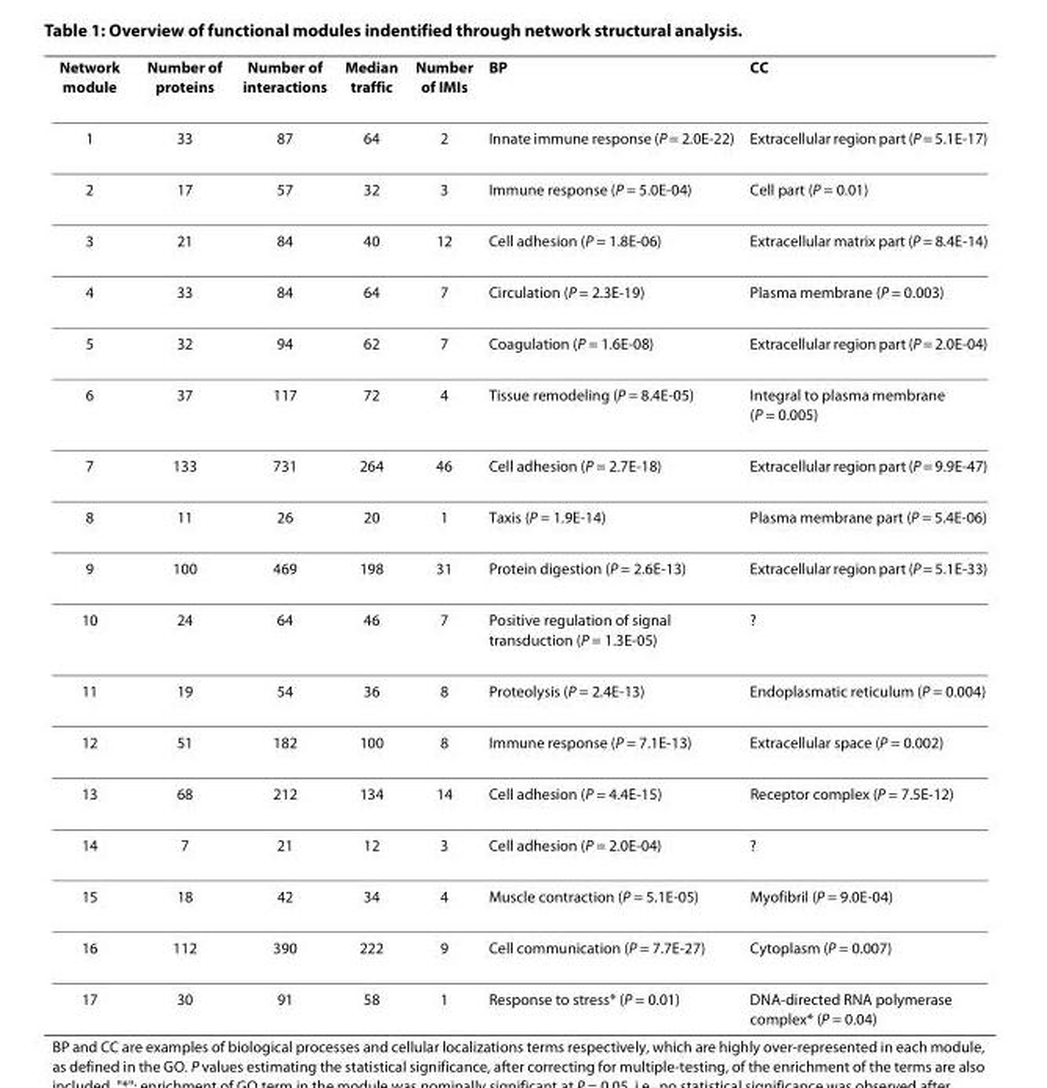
<table><thead><tr><td>Network module</td><td>Number of proteins</td><td>Number of interactions</td><td>Median traffic</td><td>Number of IMIs</td><td>BP</td><td>CC</td></tr></thead><tbody><tr><td>1</td><td>33</td><td>87</td><td>64</td><td>2</td><td>Innate immune response (P = 2.0E-22)</td><td>Extracellular region part (P = 5.1E-17)</td></tr><tr><td>2</td><td>17</td><td>57</td><td>32</td><td>3</td><td>Immune response (P = 5.0E-04)</td><td>Cell part (P = 0.01)</td></tr><tr><td>3</td><td>21</td><td>84</td><td>40</td><td>12</td><td>Cell adhesion (P = 1.8E-06)</td><td>Extracellular matrix part (P = 8.4E-14)</td></tr><tr><td>4</td><td>33</td><td>84</td><td>64</td><td>7</td><td>Circulation (P = 2.3E-19)</td><td>Plasma membrane (P = 0.003)</td></tr><tr><td>5</td><td>32</td><td>94</td><td>62</td><td>7</td><td>Coagulation (P = 1.6E-08)</td><td>Extracellular region part (P = 2.0E-04)</td></tr><tr><td>6</td><td>37</td><td>117</td><td>72</td><td>4</td><td>Tissue remodeling (P = 8.4E-05)</td><td>Integral to plasma membrane (P = 0.005)</td></tr><tr><td>7</td><td>133</td><td>731</td><td>264</td><td>46</td><td>Cell adhesion (P = 2.7E-18)</td><td>Extracellular region part (P = 9.9E-47)</td></tr><tr><td>8</td><td>11</td><td>26</td><td>20</td><td>1</td><td>Taxis (P = 1.9E-14)</td><td>Plasma membrane part (P = 5.4E-06)</td></tr><tr><td>9</td><td>100</td><td>469</td><td>198</td><td>31</td><td>Protein digestion (P = 2.6E-13)</td><td>Extracellular region part (P = 5.1E-33)</td></tr><tr><td>10</td><td>24</td><td>64</td><td>46</td><td>7</td><td>Positive regulation of signal transduction (P = 1.3E-05)</td><td>?</td></tr><tr><td>11</td><td>19</td><td>54</td><td>36</td><td>8</td><td>Proteolysis (P = 2.4E-13)</td><td>Endoplasmatic reticulum (P = 0.004)</td></tr><tr><td>12</td><td>51</td><td>182</td><td>100</td><td>8</td><td>Immune response (P = 7.1E-13)</td><td>Extracellular space (P = 0.002)</td></tr><tr><td>13</td><td>68</td><td>212</td><td>134</td><td>14</td><td>Cell adhesion (P = 4.4E-15)</td><td>Receptor complex (P = 7.5E-12)</td></tr><tr><td>14</td><td>7</td><td>21</td><td>12</td><td>3</td><td>Cell adhesion (P = 2.0E-04)</td><td>?</td></tr><tr><td>15</td><td>18</td><td>42</td><td>34</td><td>4</td><td>Muscle contraction (P = 5.1E-05)</td><td>Myofibril (P = 9.0E-04)</td></tr><tr><td>16</td><td>112</td><td>390</td><td>222</td><td>9</td><td>Cell communication (P = 7.7E-27)</td><td>Cytoplasm (P = 0.007)</td></tr><tr><td>17</td><td>30</td><td>91</td><td>58</td><td>1</td><td>Response to stress* (P = 0.01)</td><td>DNA-directed RNA polymerase complex* (P = 0.04)</td></tr></tbody></table>